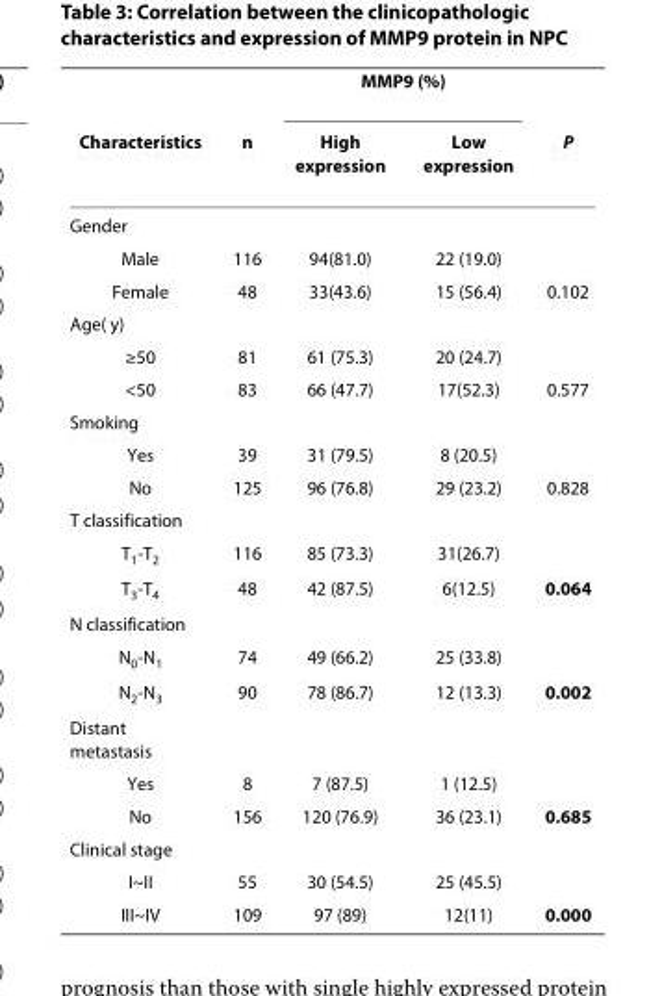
<table><thead><tr><td rowspan="2">Characteristics</td><td rowspan="2">n</td><td colspan="2">MMP9 (%)</td><td rowspan="2">P</td></tr><tr><td>High expression</td><td>Low expression</td></tr></thead><tbody><tr><td colspan="5">Gender</td></tr><tr><td>Male</td><td>116</td><td>94(81.0)</td><td>22 (19.0)</td><td></td></tr><tr><td>Female</td><td>48</td><td>33(43.6)</td><td>15 (56.4)</td><td>0.102</td></tr><tr><td colspan="5">Age( y)</td></tr><tr><td>≥50</td><td>81</td><td>61 (75.3)</td><td>20 (24.7)</td><td></td></tr><tr><td>&lt;50</td><td>83</td><td>66 (47.7)</td><td>17(52.3)</td><td>0.577</td></tr><tr><td colspan="5">Smoking</td></tr><tr><td>Yes</td><td>39</td><td>31 (79.5)</td><td>8 (20.5)</td><td></td></tr><tr><td>No</td><td>125</td><td>96 (76.8)</td><td>29 (23.2)</td><td>0.828</td></tr><tr><td colspan="5">T classification</td></tr><tr><td>T<sub>1</sub>-T<sub>2</sub></td><td>116</td><td>85 (73.3)</td><td>31(26.7)</td><td></td></tr><tr><td>T<sub>3</sub>-T<sub>4</sub></td><td>48</td><td>42 (87.5)</td><td>6(12.5)</td><td>0.064</td></tr><tr><td colspan="5">N classification</td></tr><tr><td>N<sub>0</sub>-N<sub>1</sub></td><td>74</td><td>49 (66.2)</td><td>25 (33.8)</td><td></td></tr><tr><td>N<sub>2</sub>-N<sub>3</sub></td><td>90</td><td>78 (86.7)</td><td>12 (13.3)</td><td>0.002</td></tr><tr><td colspan="5">Distant metastasis</td></tr><tr><td>Yes</td><td>8</td><td>7 (87.5)</td><td>1 (12.5)</td><td></td></tr><tr><td>No</td><td>156</td><td>120 (76.9)</td><td>36 (23.1)</td><td>0.685</td></tr><tr><td colspan="5">Clinical stage</td></tr><tr><td>I~II</td><td>55</td><td>30 (54.5)</td><td>25 (45.5)</td><td></td></tr><tr><td>III~IV</td><td>109</td><td>97 (89)</td><td>12(11)</td><td>0.000</td></tr></tbody></table>